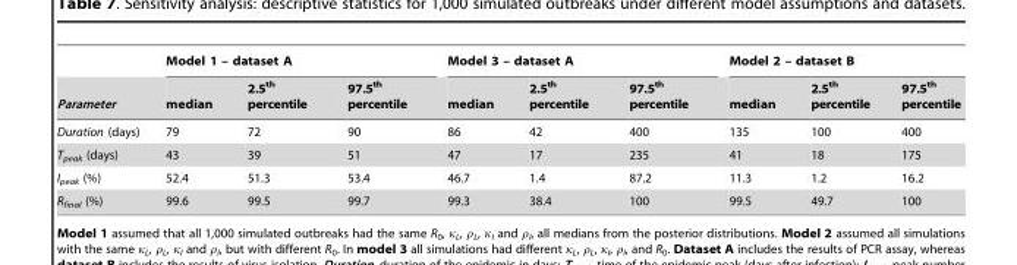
<table><thead><tr><td rowspan="2">Parameter</td><td colspan="3">Model 1 – dataset A</td><td colspan="3">Model 3 – dataset A</td><td colspan="3">Model 2 – dataset B</td></tr><tr><td>median</td><td>2.5<sup>th</sup> percentile</td><td>97.5<sup>th</sup> percentile</td><td>median</td><td>2.5<sup>th</sup> percentile</td><td>97.5<sup>th</sup> percentile</td><td>median</td><td>2.5<sup>th</sup> percentile</td><td>97.5<sup>th</sup> percentile</td></tr></thead><tbody><tr><td>Duration (days)</td><td>79</td><td>72</td><td>90</td><td>86</td><td>42</td><td>400</td><td>135</td><td>100</td><td>400</td></tr><tr><td>T<sub>peak</sub> (days)</td><td>43</td><td>39</td><td>51</td><td>47</td><td>17</td><td>235</td><td>41</td><td>18</td><td>175</td></tr><tr><td>I<sub>peak</sub> (%)</td><td>52.4</td><td>51.3</td><td>53.4</td><td>46.7</td><td>1.4</td><td>87.2</td><td>11.3</td><td>1.2</td><td>16.2</td></tr><tr><td>R<sub>final</sub> (%)</td><td>99.6</td><td>99.5</td><td>99.7</td><td>99.3</td><td>38.4</td><td>100</td><td>99.5</td><td>49.7</td><td>100</td></tr></tbody></table>